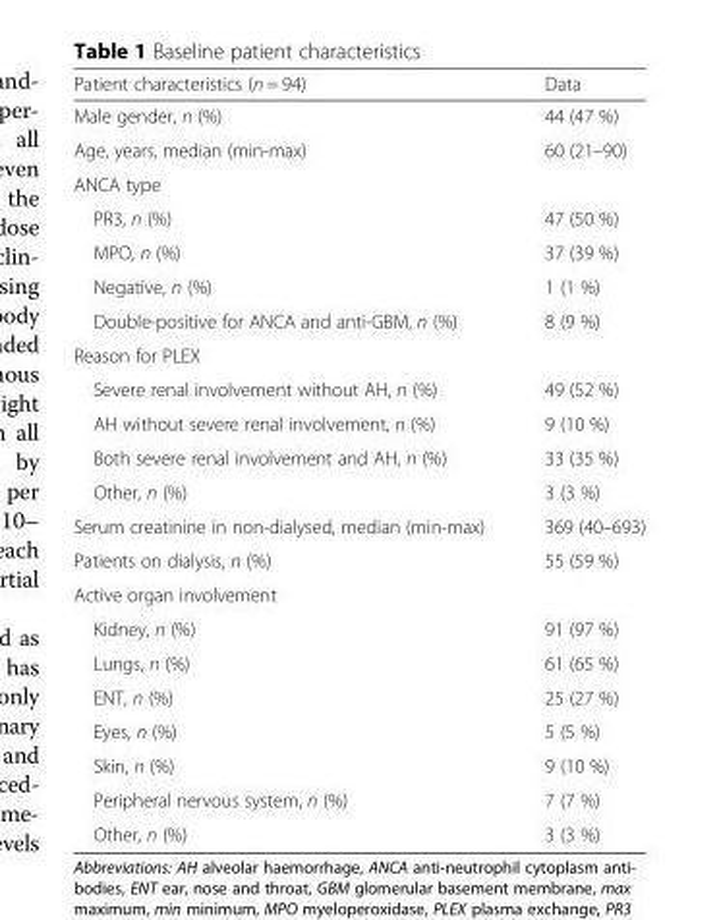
<table><thead><tr><td>Patient characteristics (n = 94)</td><td>Data</td></tr></thead><tbody><tr><td>Male gender, n (%)</td><td>44 (47 %)</td></tr><tr><td>Age, years, median (min-max)</td><td>60 (21–90)</td></tr><tr><td colspan="2">ANCA type</td></tr><tr><td>PR3, n (%)</td><td>47 (50 %)</td></tr><tr><td>MPO, n (%)</td><td>37 (39 %)</td></tr><tr><td>Negative, n (%)</td><td>1 (1 %)</td></tr><tr><td>Double-positive for ANCA and anti-GBM, n (%)</td><td>8 (9 %)</td></tr><tr><td colspan="2">Reason for PLEX</td></tr><tr><td>Severe renal involvement without AH, n (%)</td><td>49 (52 %)</td></tr><tr><td>AH without severe renal involvement, n (%)</td><td>9 (10 %)</td></tr><tr><td>Both severe renal involvement and AH, n (%)</td><td>33 (35 %)</td></tr><tr><td>Other, n (%)</td><td>3 (3 %)</td></tr><tr><td>Serum creatinine in non-dialysed, median (min-max)</td><td>369 (40–693)</td></tr><tr><td>Patients on dialysis, n (%)</td><td>55 (59 %)</td></tr><tr><td colspan="2">Active organ involvement</td></tr><tr><td>Kidney, n (%)</td><td>91 (97 %)</td></tr><tr><td>Lungs, n (%)</td><td>61 (65 %)</td></tr><tr><td>ENT, n (%)</td><td>25 (27 %)</td></tr><tr><td>Eyes, n (%)</td><td>5 (5 %)</td></tr><tr><td>Skin, n (%)</td><td>9 (10 %)</td></tr><tr><td>Peripheral nervous system, n (%)</td><td>7 (7 %)</td></tr><tr><td>Other, n (%)</td><td>3 (3 %)</td></tr></tbody></table>